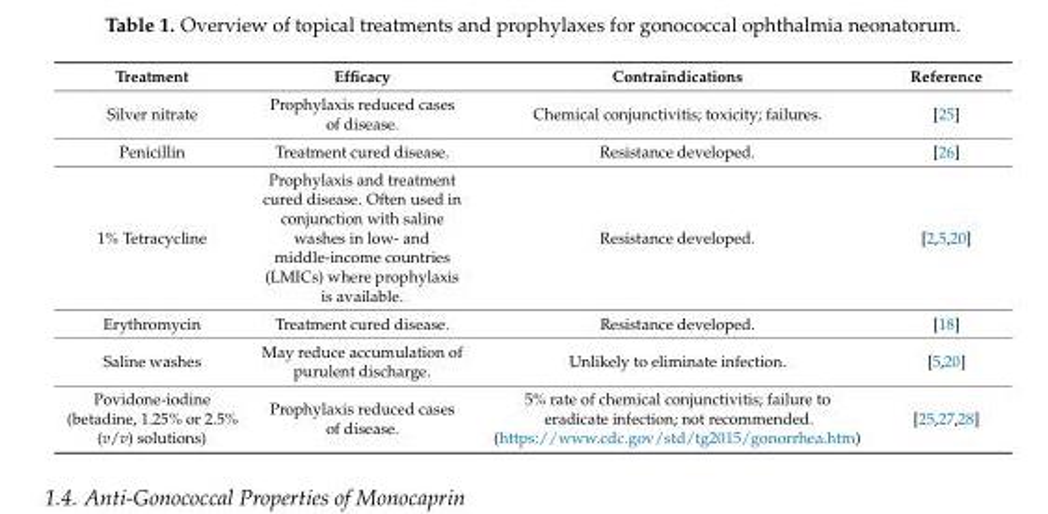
<table><thead><tr><td>Treatment</td><td>Efficacy</td><td>Contraindications</td><td>Reference</td></tr></thead><tbody><tr><td>Silver nitrate</td><td>Prophylaxis reduced cases of disease.</td><td>Chemical conjunctivitis; toxicity; failures.</td><td>[25]</td></tr><tr><td>Penicillin</td><td>Treatment cured disease.</td><td>Resistance developed.</td><td>[26]</td></tr><tr><td>1% Tetracycline</td><td>Prophylaxis and treatment cured disease. Often used in conjunction with saline washes in low- and middle-income countries (LMICs) where prophylaxis is available.</td><td>Resistance developed.</td><td>[2,5,20]</td></tr><tr><td>Erythromycin</td><td>Treatment cured disease.</td><td>Resistance developed.</td><td>[18]</td></tr><tr><td>Saline washes</td><td>May reduce accumulation of purulent discharge.</td><td>Unlikely to eliminate infection.</td><td>[5,20]</td></tr><tr><td>Povidone-iodine (betadine, 1.25% or 2.5% (v/v) solutions)</td><td>Prophylaxis reduced cases of disease.</td><td>5% rate of chemical conjunctivitis; failure to eradicate infection; not recommended. (https://www.cdc.gov/std/tg2015/gonorrhea.htm)</td><td>[25,27,28]</td></tr></tbody></table>